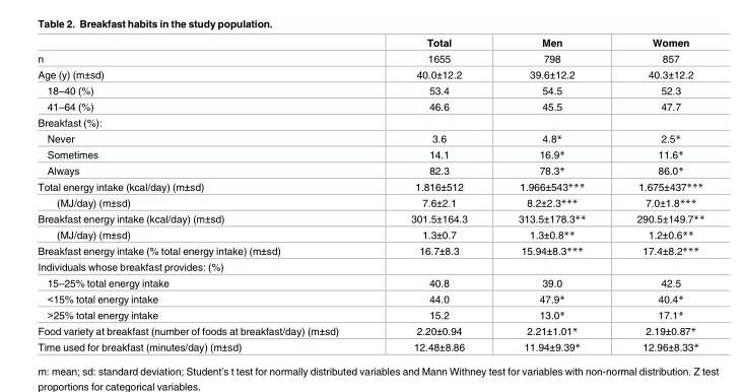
<table><thead><tr><td></td><td>Total</td><td>Men</td><td>Women</td></tr></thead><tbody><tr><td>n</td><td>1655</td><td>798</td><td>857</td></tr><tr><td>Age (y) (m±sd)</td><td>40.0±12.2</td><td>39.6±12.2</td><td>40.3±12.2</td></tr><tr><td>18–40 (%)</td><td>53.4</td><td>54.5</td><td>52.3</td></tr><tr><td>41–64 (%)</td><td>46.6</td><td>45.5</td><td>47.7</td></tr><tr><td colspan="4">Breakfast (%):</td></tr><tr><td>Never</td><td>3.6</td><td>4.8*</td><td>2.5*</td></tr><tr><td>Sometimes</td><td>14.1</td><td>16.9*</td><td>11.6*</td></tr><tr><td>Always</td><td>82.3</td><td>78.3*</td><td>86.0*</td></tr><tr><td>Total energy intake (kcal/day) (m±sd)</td><td>1.816±512</td><td>1.966±543***</td><td>1.675±437***</td></tr><tr><td>(MJ/day) (m±sd)</td><td>7.6±2.1</td><td>8.2±2.3***</td><td>7.0±1.8***</td></tr><tr><td>Breakfast energy intake (kcal/day) (m±sd)</td><td>301.5±164.3</td><td>313.5±178.3**</td><td>290.5±149.7**</td></tr><tr><td>(MJ/day) (m±sd)</td><td>1.3±0.7</td><td>1.3±0.8**</td><td>1.2±0.6**</td></tr><tr><td>Breakfast energy intake (% total energy intake) (m±sd)</td><td>16.7±8.3</td><td>15.94±8.3***</td><td>17.4±8.2***</td></tr><tr><td colspan="4">Individuals whose breakfast provides: (%)</td></tr><tr><td>15–25% total energy intake</td><td>40.8</td><td>39.0</td><td>42.5</td></tr><tr><td>&lt;15% total energy intake</td><td>44.0</td><td>47.9*</td><td>40.4*</td></tr><tr><td>&gt;25% total energy intake</td><td>15.2</td><td>13.0*</td><td>17.1*</td></tr><tr><td>Food variety at breakfast (number of foods at breakfast/day) (m±sd)</td><td>2.20±0.94</td><td>2.21±1.01*</td><td>2.19±0.87*</td></tr><tr><td>Time used for breakfast (minutes/day) (m±sd)</td><td>12.48±8.86</td><td>11.94±9.39*</td><td>12.96±8.33*</td></tr></tbody></table>